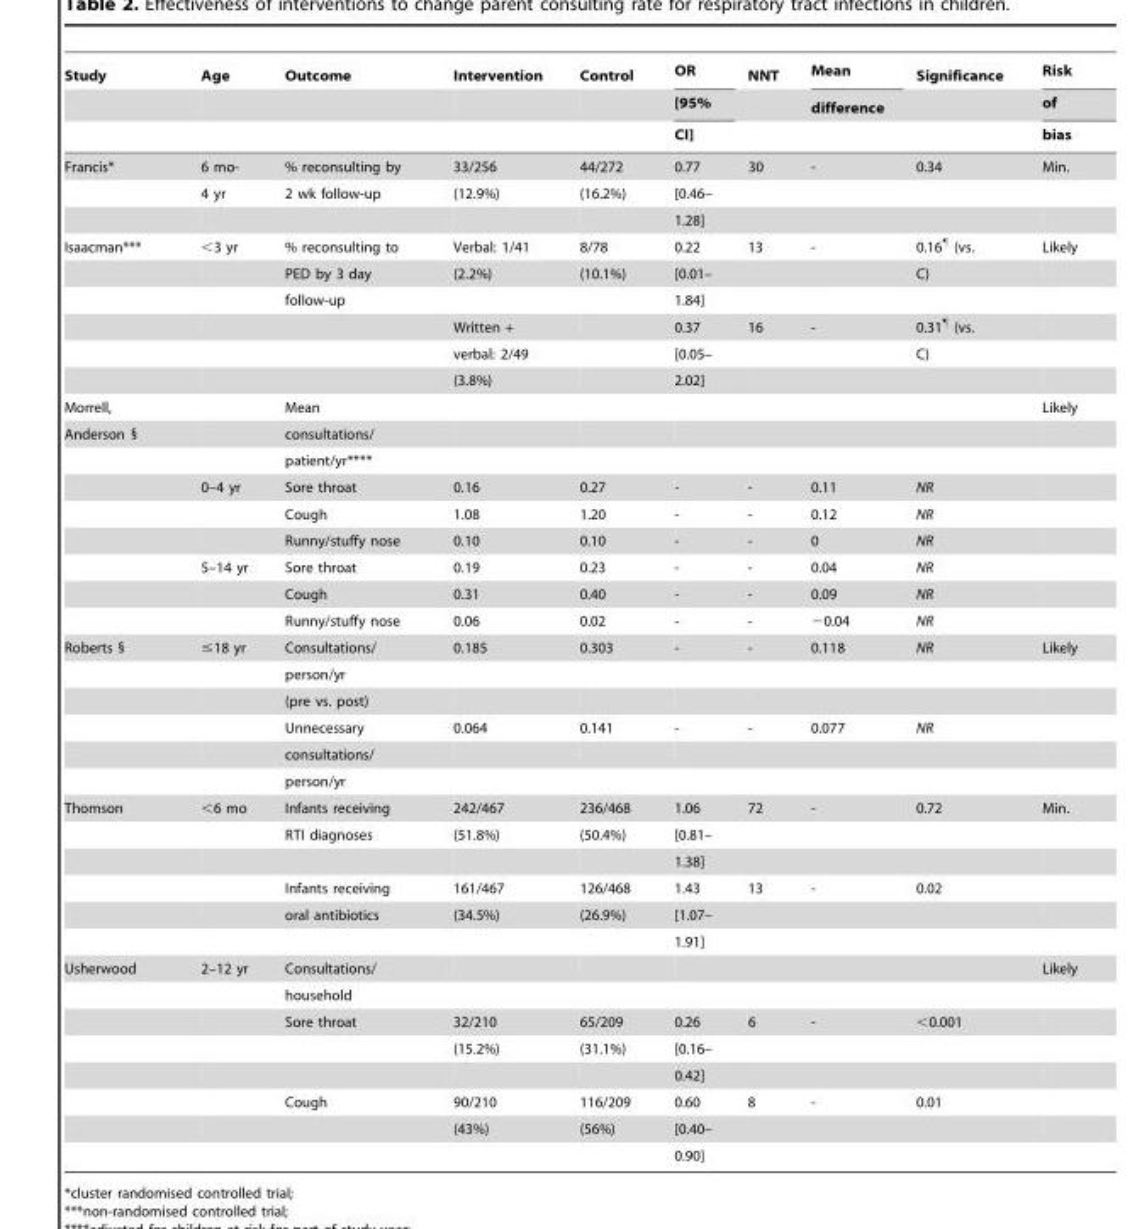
<table><thead><tr><td rowspan="3">Study</td><td rowspan="3">Age</td><td rowspan="3">Outcome</td><td rowspan="3">Intervention</td><td rowspan="3">Control</td><td rowspan="3">OR [95% CI]</td><td rowspan="3">NNT</td><td rowspan="3">Mean difference</td><td rowspan="3">Significance</td><td rowspan="3">Risk of bias</td></tr><tr></tr><tr></tr></thead><tbody><tr><td rowspan="3">Francis*</td><td>6 mo-</td><td>% reconsulting by</td><td>33/256</td><td>44/272</td><td>0.77</td><td>30</td><td>-</td><td>0.34</td><td>Min.</td></tr><tr><td>4 yr</td><td>2 wk follow-up</td><td>(12.9%)</td><td>(16.2%)</td><td>[0.46–</td><td></td><td></td><td></td><td></td></tr><tr><td></td><td></td><td></td><td></td><td>1.28]</td><td></td><td></td><td></td><td></td></tr><tr><td rowspan="6">Isaacman***</td><td>&lt;3 yr</td><td>% reconsulting to</td><td>Verbal: 1/41</td><td>8/78</td><td>0.22</td><td>13</td><td>-</td><td>0.16¶ (vs.</td><td>Likely</td></tr><tr><td></td><td>PED by 3 day</td><td>(2.2%)</td><td>(10.1%)</td><td>[0.01–</td><td></td><td></td><td>C)</td><td></td></tr><tr><td></td><td>follow-up</td><td></td><td></td><td>1.84]</td><td></td><td></td><td></td><td></td></tr><tr><td></td><td></td><td>Written +</td><td></td><td>0.37</td><td>16</td><td>-</td><td>0.31¶ (vs.</td><td></td></tr><tr><td></td><td></td><td>verbal: 2/49</td><td></td><td>[0.05–</td><td></td><td></td><td>C)</td><td></td></tr><tr><td></td><td></td><td>(3.8%)</td><td></td><td>2.02]</td><td></td><td></td><td></td><td></td></tr><tr><td>Morrell,</td><td></td><td>Mean</td><td></td><td></td><td></td><td></td><td></td><td></td><td>Likely</td></tr><tr><td rowspan="8">Anderson §</td><td></td><td>consultations/</td><td></td><td></td><td></td><td></td><td></td><td></td><td></td></tr><tr><td></td><td>patient/yr****</td><td></td><td></td><td></td><td></td><td></td><td></td><td></td></tr><tr><td>0–4 yr</td><td>Sore throat</td><td>0.16</td><td>0.27</td><td>-</td><td>-</td><td>0.11</td><td>NR</td><td></td></tr><tr><td></td><td>Cough</td><td>1.08</td><td>1.20</td><td>-</td><td>-</td><td>0.12</td><td>NR</td><td></td></tr><tr><td></td><td>Runny/stuffy nose</td><td>0.10</td><td>0.10</td><td>-</td><td>-</td><td>0</td><td>NR</td><td></td></tr><tr><td>5–14 yr</td><td>Sore throat</td><td>0.19</td><td>0.23</td><td>-</td><td>-</td><td>0.04</td><td>NR</td><td></td></tr><tr><td></td><td>Cough</td><td>0.31</td><td>0.40</td><td>-</td><td>-</td><td>0.09</td><td>NR</td><td></td></tr><tr><td></td><td>Runny/stuffy nose</td><td>0.06</td><td>0.02</td><td>-</td><td>-</td><td>−0.04</td><td>NR</td><td></td></tr><tr><td rowspan="6">Roberts §</td><td>≤18 yr</td><td>Consultations/</td><td>0.185</td><td>0.303</td><td>-</td><td>-</td><td>0.118</td><td>NR</td><td>Likely</td></tr><tr><td></td><td>person/yr</td><td></td><td></td><td></td><td></td><td></td><td></td><td></td></tr><tr><td></td><td>(pre vs. post)</td><td></td><td></td><td></td><td></td><td></td><td></td><td></td></tr><tr><td></td><td>Unnecessary</td><td>0.064</td><td>0.141</td><td>-</td><td>-</td><td>0.077</td><td>NR</td><td></td></tr><tr><td></td><td>consultations/</td><td></td><td></td><td></td><td></td><td></td><td></td><td></td></tr><tr><td></td><td>person/yr</td><td></td><td></td><td></td><td></td><td></td><td></td><td></td></tr><tr><td rowspan="6">Thomson</td><td>&lt;6 mo</td><td>Infants receiving</td><td>242/467</td><td>236/468</td><td>1.06</td><td>72</td><td>-</td><td>0.72</td><td>Min.</td></tr><tr><td></td><td>RTI diagnoses</td><td>(51.8%)</td><td>(50.4%)</td><td>[0.81–</td><td></td><td></td><td></td><td></td></tr><tr><td></td><td></td><td></td><td></td><td>1.38]</td><td></td><td></td><td></td><td></td></tr><tr><td></td><td>Infants receiving</td><td>161/467</td><td>126/468</td><td>1.43</td><td>13</td><td>-</td><td>0.02</td><td></td></tr><tr><td></td><td>oral antibiotics</td><td>(34.5%)</td><td>(26.9%)</td><td>[1.07–</td><td></td><td></td><td></td><td></td></tr><tr><td></td><td></td><td></td><td></td><td>1.91]</td><td></td><td></td><td></td><td></td></tr><tr><td rowspan="8">Usherwood</td><td>2–12 yr</td><td>Consultations/</td><td></td><td></td><td></td><td></td><td></td><td></td><td>Likely</td></tr><tr><td></td><td>household</td><td></td><td></td><td></td><td></td><td></td><td></td><td></td></tr><tr><td></td><td>Sore throat</td><td>32/210</td><td>65/209</td><td>0.26</td><td>6</td><td>-</td><td>&lt;0.001</td><td></td></tr><tr><td></td><td></td><td>(15.2%)</td><td>(31.1%)</td><td>[0.16–</td><td></td><td></td><td></td><td></td></tr><tr><td></td><td></td><td></td><td></td><td>0.42]</td><td></td><td></td><td></td><td></td></tr><tr><td></td><td>Cough</td><td>90/210</td><td>116/209</td><td>0.60</td><td>8</td><td>-</td><td>0.01</td><td></td></tr><tr><td></td><td></td><td>(43%)</td><td>(56%)</td><td>[0.40–</td><td></td><td></td><td></td><td></td></tr><tr><td></td><td></td><td></td><td></td><td>0.90]</td><td></td><td></td><td></td><td></td></tr></tbody></table>